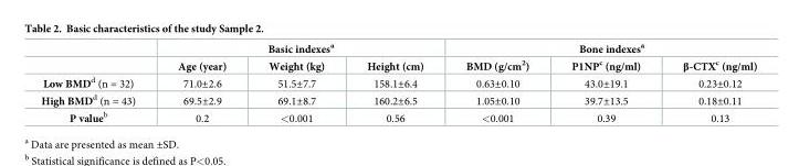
<table><thead><tr><td rowspan="2"></td><td colspan="3">Basic indexes<sup>a</sup></td><td colspan="3">Bone indexes<sup>a</sup></td></tr><tr><td>Age (year)</td><td>Weight (kg)</td><td>Height (cm)</td><td>BMD (g/cm<sup>2</sup>)</td><td>P1NP<sup>c</sup> (ng/ml)</td><td>β-CTX<sup>c</sup> (ng/ml)</td></tr></thead><tbody><tr><td>Low BMD<sup>d</sup> (n = 32)</td><td>71.0±2.6</td><td>51.5±7.7</td><td>158.1±6.4</td><td>0.63±0.10</td><td>43.0±19.1</td><td>0.23±0.12</td></tr><tr><td>High BMD<sup>d</sup> (n = 43)</td><td>69.5±2.9</td><td>69.1±8.7</td><td>160.2±6.5</td><td>1.05±0.10</td><td>39.7±13.5</td><td>0.18±0.11</td></tr><tr><td>P value<sup>b</sup></td><td>0.2</td><td>&lt;0.001</td><td>0.56</td><td>&lt;0.001</td><td>0.39</td><td>0.13</td></tr></tbody></table>